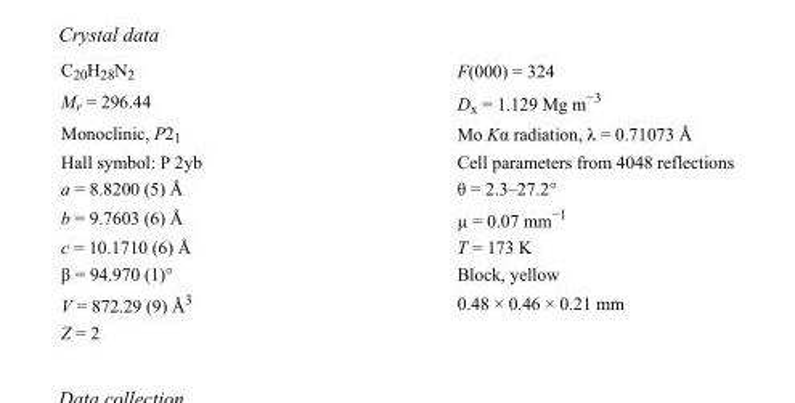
<table><tbody><tr><td>C<sub>20</sub>H<sub>28</sub>N<sub>2</sub></td><td>F(000) = 324</td></tr><tr><td>M<sub>r</sub> = 296.44</td><td>D<sub>x</sub> = 1.129 Mg m<sup>−3</sup></td></tr><tr><td>Monoclinic, P2<sub>1</sub></td><td>Mo Kα radiation, λ = 0.71073 Å</td></tr><tr><td>Hall symbol: P 2yb</td><td>Cell parameters from 4048 reflections</td></tr><tr><td>a = 8.8200 (5) Å</td><td>θ = 2.3–27.2°</td></tr><tr><td>b = 9.7603 (6) Å</td><td>µ = 0.07 mm<sup>−1</sup></td></tr><tr><td>c = 10.1710 (6) Å</td><td>T = 173 K</td></tr><tr><td>β = 94.970 (1)°</td><td>Block, yellow</td></tr><tr><td>V = 872.29 (9) Å<sup>3</sup></td><td>0.48 × 0.46 × 0.21 mm</td></tr><tr><td>Z = 2</td><td></td></tr></tbody></table>